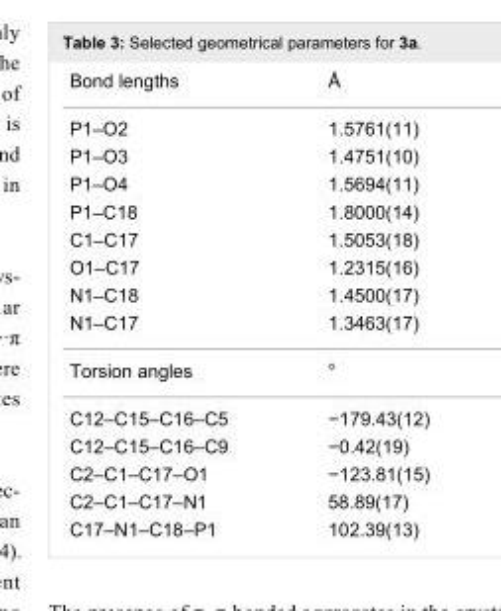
<table><tbody><tr><td>Bond lengths</td><td>Å</td></tr><tr><td>P1–O2</td><td>1.5761(11)</td></tr><tr><td>P1–O3</td><td>1.4751(10)</td></tr><tr><td>P1–O4</td><td>1.5694(11)</td></tr><tr><td>P1–C18</td><td>1.8000(14)</td></tr><tr><td>C1–C17</td><td>1.5053(18)</td></tr><tr><td>O1–C17</td><td>1.2315(16)</td></tr><tr><td>N1–C18</td><td>1.4500(17)</td></tr><tr><td>N1–C17</td><td>1.3463(17)</td></tr><tr><td>Torsion angles</td><td>°</td></tr><tr><td>C12–C15–C16–C5</td><td>−179.43(12)</td></tr><tr><td>C12–C15–C16–C9</td><td>−0.42(19)</td></tr><tr><td>C2–C1–C17–O1</td><td>−123.81(15)</td></tr><tr><td>C2–C1–C17–N1</td><td>58.89(17)</td></tr><tr><td>C17–N1–C18–P1</td><td>102.39(13)</td></tr></tbody></table>